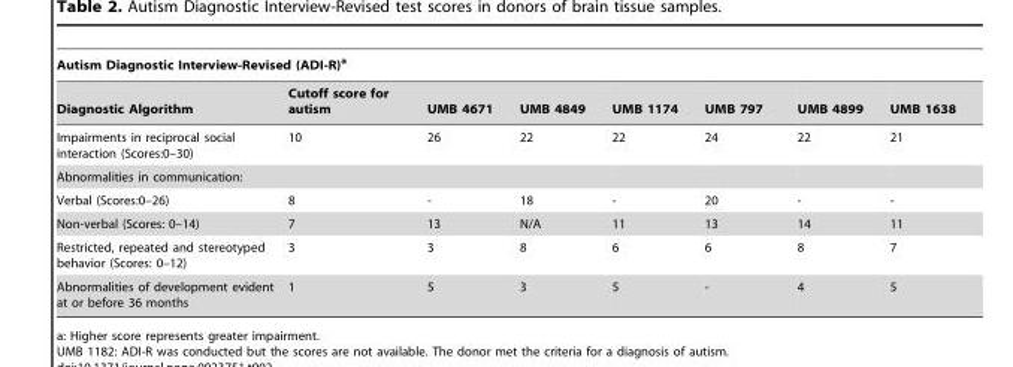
<table><thead><tr><td colspan="8">Autism Diagnostic Interview-Revised (ADI-R)<sup>a</sup></td></tr><tr><td>Diagnostic Algorithm</td><td>Cutoff score for autism</td><td>UMB 4671</td><td>UMB 4849</td><td>UMB 1174</td><td>UMB 797</td><td>UMB 4899</td><td>UMB 1638</td></tr></thead><tbody><tr><td>Impairments in reciprocal social interaction (Scores:0–30)</td><td>10</td><td>26</td><td>22</td><td>22</td><td>24</td><td>22</td><td>21</td></tr><tr><td colspan="8">Abnormalities in communication:</td></tr><tr><td>Verbal (Scores:0–26)</td><td>8</td><td>-</td><td>18</td><td>-</td><td>20</td><td>-</td><td>-</td></tr><tr><td>Non-verbal (Scores: 0–14)</td><td>7</td><td>13</td><td>N/A</td><td>11</td><td>13</td><td>14</td><td>11</td></tr><tr><td>Restricted, repeated and stereotyped behavior (Scores: 0–12)</td><td>3</td><td>3</td><td>8</td><td>6</td><td>6</td><td>8</td><td>7</td></tr><tr><td>Abnormalities of development evident at or before 36 months</td><td>1</td><td>5</td><td>3</td><td>5</td><td>-</td><td>4</td><td>5</td></tr></tbody></table>